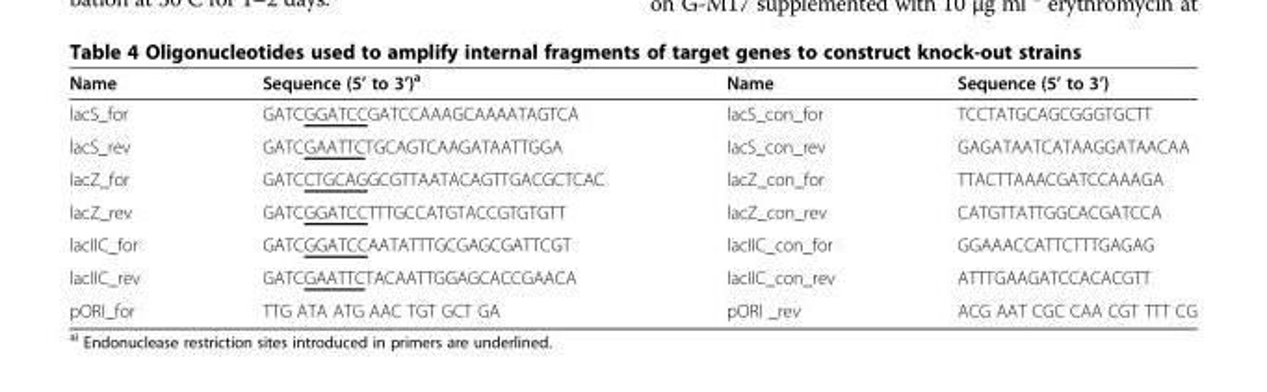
<table><thead><tr><td>Name</td><td>Sequence (5’ to 3’)<sup>a</sup></td><td>Name</td><td>Sequence (5’ to 3’)</td></tr></thead><tbody><tr><td>lacS_for</td><td>GATCGGATCCGATCCAAAGCAAAATAGTCA</td><td>lacS_con_for</td><td>TCCTATGCAGCGGGTGCTT</td></tr><tr><td>lacS_rev</td><td>GATCGAATTCTGCAGTCAAGATAATTGGA</td><td>lacS_con_rev</td><td>GAGATAATCATAAGGATAACAA</td></tr><tr><td>lacZ_for</td><td>GATCCTGCAGGCGTTAATACAGTTGACGCTCAC</td><td>lacZ_con_for</td><td>TTACTTAAACGATCCAAAGA</td></tr><tr><td>lacZ_rev</td><td>GATCGGATCCTTTGCCATGTACCGTGTGTT</td><td>lacZ_con_rev</td><td>CATGTTATTGGCACGATCCA</td></tr><tr><td>lacIIC_for</td><td>GATCGGATCCAATATTTGCGAGCGATTCGT</td><td>lacIIC_con_for</td><td>GGAAACCATTCTTTGAGAG</td></tr><tr><td>lacIIC_rev</td><td>GATCGAATTCTACAATTGGAGCACCGAACA</td><td>lacIIC_con_rev</td><td>ATTTGAAGATCCACACGTT</td></tr><tr><td>pORI_for</td><td>TTG ATA ATG AAC TGT GCT GA</td><td>pORI _rev</td><td>ACG AAT CGC CAA CGT TTT CG</td></tr></tbody></table>